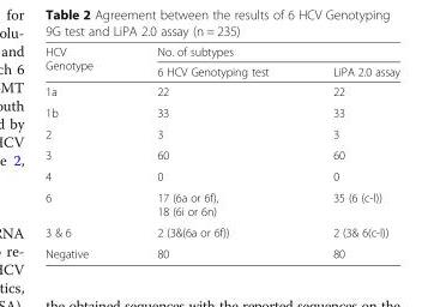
<table><thead><tr><td rowspan="2">HCV Genotype</td><td colspan="2">No. of subtypes</td></tr><tr><td>6 HCV Genotyping test</td><td>LiPA 2.0 assay</td></tr></thead><tbody><tr><td>1a</td><td>22</td><td>22</td></tr><tr><td>1b</td><td>33</td><td>33</td></tr><tr><td>2</td><td>3</td><td>3</td></tr><tr><td>3</td><td>60</td><td>60</td></tr><tr><td>4</td><td>0</td><td>0</td></tr><tr><td>6</td><td>17 (6a or 6f), 18 (6i or 6n)</td><td>35 (6 (c-l))</td></tr><tr><td>3 &amp; 6</td><td>2 (3&amp;(6a or 6f))</td><td>2 (3&amp; 6(c-l))</td></tr><tr><td>Negative</td><td>80</td><td>80</td></tr></tbody></table>